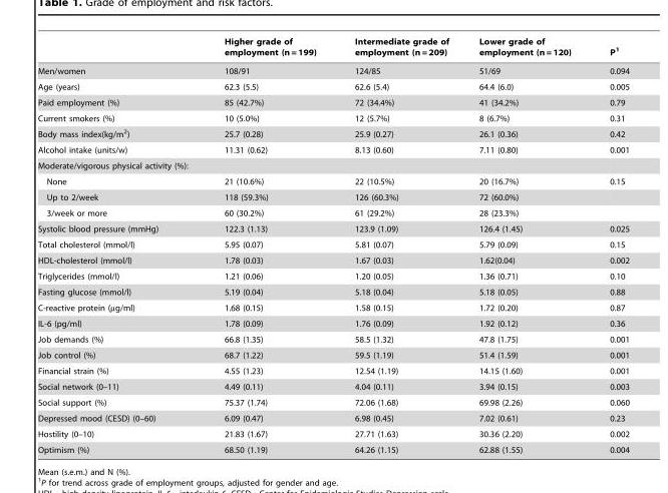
<table><thead><tr><td></td><td>Higher grade of employment (n = 199)</td><td>Intermediate grade of employment (n = 209)</td><td>Lower grade of employment (n = 120)</td><td>P<sup>1</sup></td></tr></thead><tbody><tr><td>Men/women</td><td>108/91</td><td>124/85</td><td>51/69</td><td>0.094</td></tr><tr><td>Age (years)</td><td>62.3 (5.5)</td><td>62.6 (5.4)</td><td>64.4 (6.0)</td><td>0.005</td></tr><tr><td>Paid employment (%)</td><td>85 (42.7%)</td><td>72 (34.4%)</td><td>41 (34.2%)</td><td>0.79</td></tr><tr><td>Current smokers (%)</td><td>10 (5.0%)</td><td>12 (5.7%)</td><td>8 (6.7%)</td><td>0.31</td></tr><tr><td>Body mass index(kg/m<sup>2</sup>)</td><td>25.7 (0.28)</td><td>25.9 (0.27)</td><td>26.1 (0.36)</td><td>0.42</td></tr><tr><td>Alcohol intake (units/w)</td><td>11.31 (0.62)</td><td>8.13 (0.60)</td><td>7.11 (0.80)</td><td>0.001</td></tr><tr><td colspan="5">Moderate/vigorous physical activity (%):</td></tr><tr><td>None</td><td>21 (10.6%)</td><td>22 (10.5%)</td><td>20 (16.7%)</td><td>0.15</td></tr><tr><td>Up to 2/week</td><td>118 (59.3%)</td><td>126 (60.3%)</td><td>72 (60.0%)</td><td></td></tr><tr><td>3/week or more</td><td>60 (30.2%)</td><td>61 (29.2%)</td><td>28 (23.3%)</td><td></td></tr><tr><td>Systolic blood pressure (mmHg)</td><td>122.3 (1.13)</td><td>123.9 (1.09)</td><td>126.4 (1.45)</td><td>0.025</td></tr><tr><td>Total cholesterol (mmol/l)</td><td>5.95 (0.07)</td><td>5.81 (0.07)</td><td>5.79 (0.09)</td><td>0.15</td></tr><tr><td>HDL-cholesterol (mmol/l)</td><td>1.78 (0.03)</td><td>1.67 (0.03)</td><td>1.62(0.04)</td><td>0.002</td></tr><tr><td>Triglycerides (mmol/l)</td><td>1.21 (0.06)</td><td>1.20 (0.05)</td><td>1.36 (0.71)</td><td>0.10</td></tr><tr><td>Fasting glucose (mmol/l)</td><td>5.19 (0.04)</td><td>5.18 (0.04)</td><td>5.18 (0.05)</td><td>0.88</td></tr><tr><td>C-reactive protein (µg/ml)</td><td>1.68 (0.15)</td><td>1.58 (0.15)</td><td>1.72 (0.20)</td><td>0.87</td></tr><tr><td>IL-6 (pg/ml)</td><td>1.78 (0.09)</td><td>1.76 (0.09)</td><td>1.92 (0.12)</td><td>0.36</td></tr><tr><td>Job demands (%)</td><td>66.8 (1.35)</td><td>58.5 (1.32)</td><td>47.8 (1.75)</td><td>0.001</td></tr><tr><td>Job control (%)</td><td>68.7 (1.22)</td><td>59.5 (1.19)</td><td>51.4 (1.59)</td><td>0.001</td></tr><tr><td>Financial strain (%)</td><td>4.55 (1.23)</td><td>12.54 (1.19)</td><td>14.15 (1.60)</td><td>0.001</td></tr><tr><td>Social network (0–11)</td><td>4.49 (0.11)</td><td>4.04 (0.11)</td><td>3.94 (0.15)</td><td>0.003</td></tr><tr><td>Social support (%)</td><td>75.37 (1.74)</td><td>72.06 (1.68)</td><td>69.98 (2.26)</td><td>0.060</td></tr><tr><td>Depressed mood (CESD) (0–60)</td><td>6.09 (0.47)</td><td>6.98 (0.45)</td><td>7.02 (0.61)</td><td>0.23</td></tr><tr><td>Hostility (0–10)</td><td>21.83 (1.67)</td><td>27.71 (1.63)</td><td>30.36 (2.20)</td><td>0.002</td></tr><tr><td>Optimism (%)</td><td>68.50 (1.19)</td><td>64.26 (1.15)</td><td>62.88 (1.55)</td><td>0.004</td></tr></tbody></table>